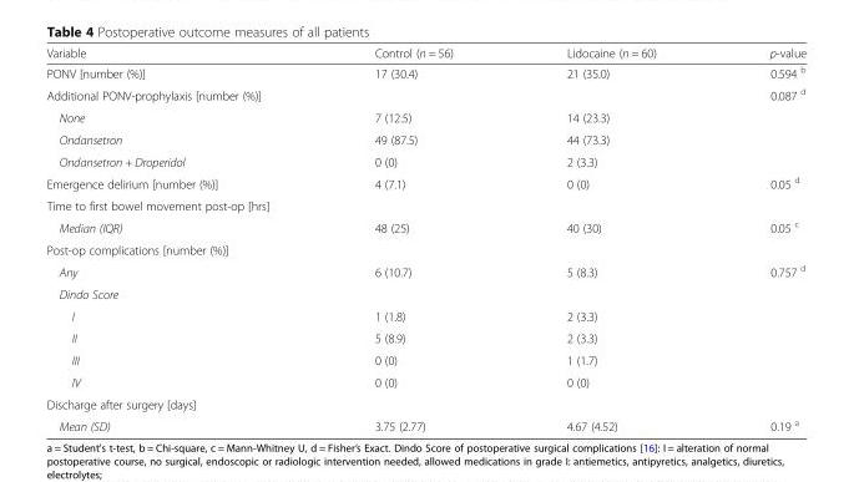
<table><thead><tr><td>Variable</td><td>Control (n = 56)</td><td>Lidocaine (n = 60)</td><td>p-value</td></tr></thead><tbody><tr><td>PONV [number (%)]</td><td>17 (30.4)</td><td>21 (35.0)</td><td>0.594 <sup>b</sup></td></tr><tr><td>Additional PONV-prophylaxis [number (%)]</td><td></td><td></td><td>0.087 <sup>d</sup></td></tr><tr><td>None</td><td>7 (12.5)</td><td>14 (23.3)</td><td></td></tr><tr><td>Ondansetron</td><td>49 (87.5)</td><td>44 (73.3)</td><td></td></tr><tr><td>Ondansetron + Droperidol</td><td>0 (0)</td><td>2 (3.3)</td><td></td></tr><tr><td>Emergence delirium [number (%)]</td><td>4 (7.1)</td><td>0 (0)</td><td>0.05 <sup>d</sup></td></tr><tr><td colspan="4">Time to first bowel movement post-op [hrs]</td></tr><tr><td>Median (IQR)</td><td>48 (25)</td><td>40 (30)</td><td>0.05 <sup>c</sup></td></tr><tr><td colspan="4">Post-op complications [number (%)]</td></tr><tr><td>Any</td><td>6 (10.7)</td><td>5 (8.3)</td><td>0.757 <sup>d</sup></td></tr><tr><td colspan="4">Dindo Score</td></tr><tr><td>I</td><td>1 (1.8)</td><td>2 (3.3)</td><td></td></tr><tr><td>II</td><td>5 (8.9)</td><td>2 (3.3)</td><td></td></tr><tr><td>III</td><td>0 (0)</td><td>1 (1.7)</td><td></td></tr><tr><td>IV</td><td>0 (0)</td><td>0 (0)</td><td></td></tr><tr><td colspan="4">Discharge after surgery [days]</td></tr><tr><td>Mean (SD)</td><td>3.75 (2.77)</td><td>4.67 (4.52)</td><td>0.19 <sup>a</sup></td></tr></tbody></table>